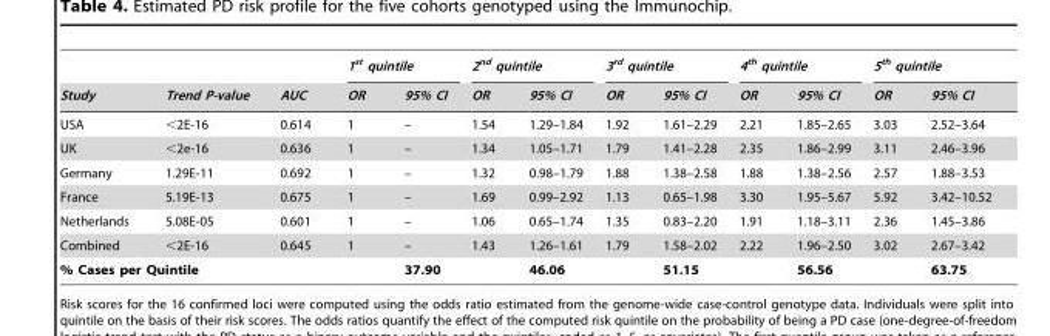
<table><thead><tr><td rowspan="2">Study</td><td rowspan="2">Trend P-value</td><td rowspan="2">AUC</td><td colspan="2">1<sup>st</sup> quintile</td><td colspan="2">2<sup>nd</sup> quintile</td><td colspan="2">3<sup>rd</sup> quintile</td><td colspan="2">4<sup>th</sup> quintile</td><td colspan="2">5<sup>th</sup> quintile</td></tr><tr><td>OR</td><td>95% CI</td><td>OR</td><td>95% CI</td><td>OR</td><td>95% CI</td><td>OR</td><td>95% CI</td><td>OR</td><td>95% CI</td></tr></thead><tbody><tr><td>USA</td><td>&lt;2E-16</td><td>0.614</td><td>1</td><td>–</td><td>1.54</td><td>1.29–1.84</td><td>1.92</td><td>1.61–2.29</td><td>2.21</td><td>1.85–2.65</td><td>3.03</td><td>2.52–3.64</td></tr><tr><td>UK</td><td>&lt;2e-16</td><td>0.636</td><td>1</td><td>–</td><td>1.34</td><td>1.05–1.71</td><td>1.79</td><td>1.41–2.28</td><td>2.35</td><td>1.86–2.99</td><td>3.11</td><td>2.46–3.96</td></tr><tr><td>Germany</td><td>1.29E-11</td><td>0.692</td><td>1</td><td>–</td><td>1.32</td><td>0.98–1.79</td><td>1.88</td><td>1.38–2.58</td><td>1.88</td><td>1.38–2.56</td><td>2.57</td><td>1.88–3.53</td></tr><tr><td>France</td><td>5.19E-13</td><td>0.675</td><td>1</td><td>–</td><td>1.69</td><td>0.99–2.92</td><td>1.13</td><td>0.65–1.98</td><td>3.30</td><td>1.95–5.67</td><td>5.92</td><td>3.42–10.52</td></tr><tr><td>Netherlands</td><td>5.08E-05</td><td>0.601</td><td>1</td><td>–</td><td>1.06</td><td>0.65–1.74</td><td>1.35</td><td>0.83–2.20</td><td>1.91</td><td>1.18–3.11</td><td>2.36</td><td>1.45–3.86</td></tr><tr><td>Combined</td><td>&lt;2E-16</td><td>0.645</td><td>1</td><td>–</td><td>1.43</td><td>1.26–1.61</td><td>1.79</td><td>1.58–2.02</td><td>2.22</td><td>1.96–2.50</td><td>3.02</td><td>2.67–3.42</td></tr><tr><td colspan="2">% Cases per Quintile</td><td></td><td></td><td>37.90</td><td></td><td>46.06</td><td></td><td>51.15</td><td></td><td>56.56</td><td></td><td>63.75</td></tr></tbody></table>